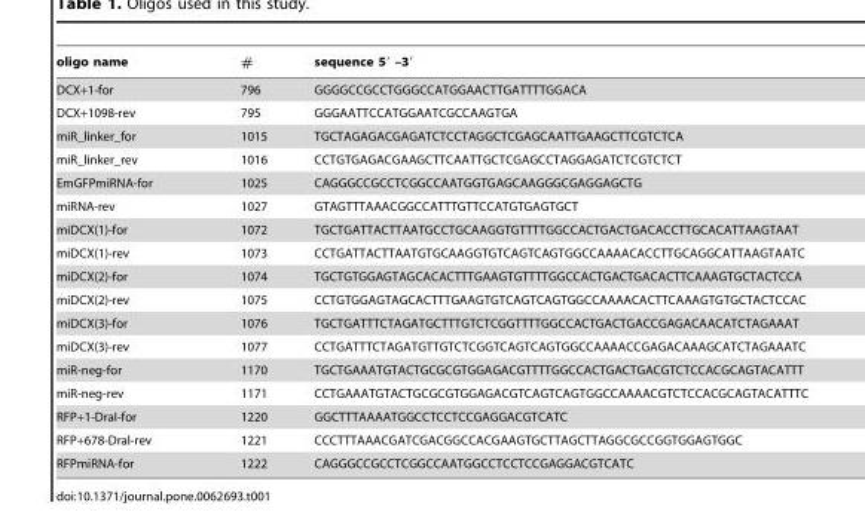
<table><thead><tr><td>oligo name</td><td>#</td><td>sequence 5′ –3′</td></tr></thead><tbody><tr><td>DCX+1-for</td><td>796</td><td>GGGGCCGCCTGGGCCATGGAACTTGATTTTGGACA</td></tr><tr><td>DCX+1098-rev</td><td>795</td><td>GGGAATTCCATGGAATCGCCAAGTGA</td></tr><tr><td>miR_linker_for</td><td>1015</td><td>TGCTAGAGACGAGATCTCCTAGGCTCGAGCAATTGAAGCTTCGTCTCA</td></tr><tr><td>miR_linker_rev</td><td>1016</td><td>CCTGTGAGACGAAGCTTCAATTGCTCGAGCCTAGGAGATCTCGTCTCT</td></tr><tr><td>EmGFPmiRNA-for</td><td>1025</td><td>CAGGGCCGCCTCGGCCAATGGTGAGCAAGGGCGAGGAGCTG</td></tr><tr><td>miRNA-rev</td><td>1027</td><td>GTAGTTTAAACGGCCATTTGTTCCATGTGAGTGCT</td></tr><tr><td>miDCX(1)-for</td><td>1072</td><td>TGCTGATTACTTAATGCCTGCAAGGTGTTTTGGCCACTGACTGACACCTTGCACATTAAGTAAT</td></tr><tr><td>miDCX(1)-rev</td><td>1073</td><td>CCTGATTACTTAATGTGCAAGGTGTCAGTCAGTGGCCAAAACACCTTGCAGGCATTAAGTAATC</td></tr><tr><td>miDCX(2)-for</td><td>1074</td><td>TGCTGTGGAGTAGCACACTTTGAAGTGTTTTGGCCACTGACTGACACTTCAAAGTGCTACTCCA</td></tr><tr><td>miDCX(2)-rev</td><td>1075</td><td>CCTGTGGAGTAGCACTTTGAAGTGTCAGTCAGTGGCCAAAACACTTCAAAGTGTGCTACTCCAC</td></tr><tr><td>miDCX(3)-for</td><td>1076</td><td>TGCTGATTTCTAGATGCTTTGTCTCGGTTTTGGCCACTGACTGACCGAGACAACATCTAGAAAT</td></tr><tr><td>miDCX(3)-rev</td><td>1077</td><td>CCTGATTTCTAGATGTTGTCTCGGTCAGTCAGTGGCCAAAACCGAGACAAAGCATCTAGAAATC</td></tr><tr><td>miR-neg-for</td><td>1170</td><td>TGCTGAAATGTACTGCGCGTGGAGACGTTTTGGCCACTGACTGACGTCTCCACGCAGTACATTT</td></tr><tr><td>miR-neg-rev</td><td>1171</td><td>CCTGAAATGTACTGCGCGTGGAGACGTCAGTCAGTGGCCAAAACGTCTCCACGCAGTACATTTC</td></tr><tr><td>RFP+1-DraI-for</td><td>1220</td><td>GGCTTTAAAATGGCCTCCTCCGAGGACGTCATC</td></tr><tr><td>RFP+678-Dral-rev</td><td>1221</td><td>CCCTTTAAACGATCGACGGCCACGAAGTGCTTAGCTTAGGCGCCGGTGGAGTGGC</td></tr><tr><td>RFPmiRNA-for</td><td>1222</td><td>CAGGGCCGCCTCGGCCAATGGCCTCCTCCGAGGACGTCATC</td></tr></tbody></table>